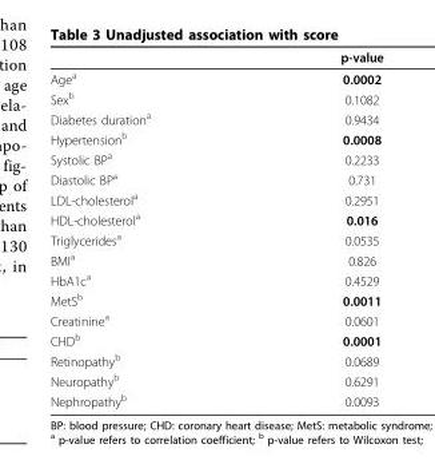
<table><thead><tr><td></td><td>p-value</td></tr></thead><tbody><tr><td>Age<sup>a</sup></td><td>0.0002</td></tr><tr><td>Sex<sup>b</sup></td><td>0.1082</td></tr><tr><td>Diabetes duration<sup>a</sup></td><td>0.9434</td></tr><tr><td>Hypertension<sup>b</sup></td><td>0.0008</td></tr><tr><td>Systolic BP<sup>a</sup></td><td>0.2233</td></tr><tr><td>Diastolic BP<sup>a</sup></td><td>0.731</td></tr><tr><td>LDL-cholesterol<sup>a</sup></td><td>0.2951</td></tr><tr><td>HDL-cholesterol<sup>a</sup></td><td>0.016</td></tr><tr><td>Triglycerides<sup>a</sup></td><td>0.0535</td></tr><tr><td>BMI<sup>a</sup></td><td>0.826</td></tr><tr><td>HbA1c<sup>a</sup></td><td>0.4529</td></tr><tr><td>MetS<sup>b</sup></td><td>0.0011</td></tr><tr><td>Creatinine<sup>a</sup></td><td>0.0601</td></tr><tr><td>CHD<sup>b</sup></td><td>0.0001</td></tr><tr><td>Retinopathy<sup>b</sup></td><td>0.0689</td></tr><tr><td>Neuropathy<sup>b</sup></td><td>0.6291</td></tr><tr><td>Nephropathy<sup>b</sup></td><td>0.0093</td></tr></tbody></table>